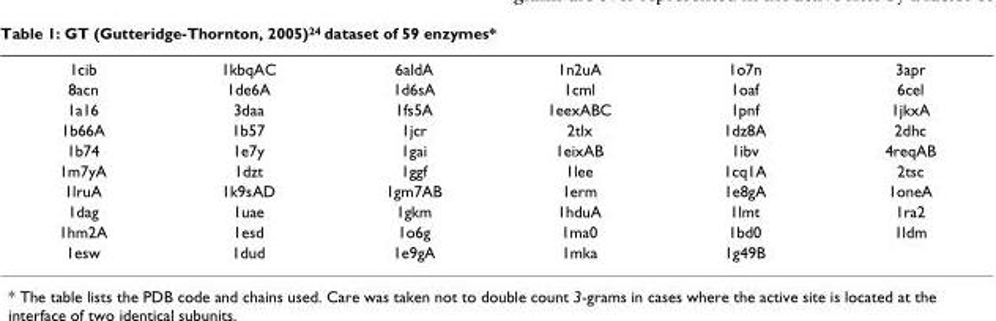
<table><tbody><tr><td>1cib</td><td>1kbqAC</td><td>6aldA</td><td>1n2uA</td><td>1o7n</td><td>3apr</td></tr><tr><td>8acn</td><td>1de6A</td><td>1d6sA</td><td>1cml</td><td>1oaf</td><td>6cel</td></tr><tr><td>1a16</td><td>3daa</td><td>1fs5A</td><td>1eexABC</td><td>1pnf</td><td>1jkxA</td></tr><tr><td>1b66A</td><td>1b57</td><td>1jcr</td><td>2tlx</td><td>1dz8A</td><td>2dhc</td></tr><tr><td>1b74</td><td>1e7y</td><td>1gai</td><td>1eixAB</td><td>1ibv</td><td>4reqAB</td></tr><tr><td>1m7yA</td><td>1dzt</td><td>1ggf</td><td>1lee</td><td>1cq1A</td><td>2tsc</td></tr><tr><td>1lruA</td><td>1k9sAD</td><td>1gm7AB</td><td>1erm</td><td>1e8gA</td><td>1oneA</td></tr><tr><td>1dag</td><td>1uae</td><td>1gkm</td><td>1hduA</td><td>1lmt</td><td>1ra2</td></tr><tr><td>1hm2A</td><td>1esd</td><td>1o6g</td><td>1ma0</td><td>1bd0</td><td>1ldm</td></tr><tr><td>1esw</td><td>1dud</td><td>1e9gA</td><td>1mka</td><td>1g49B</td><td></td></tr></tbody></table>